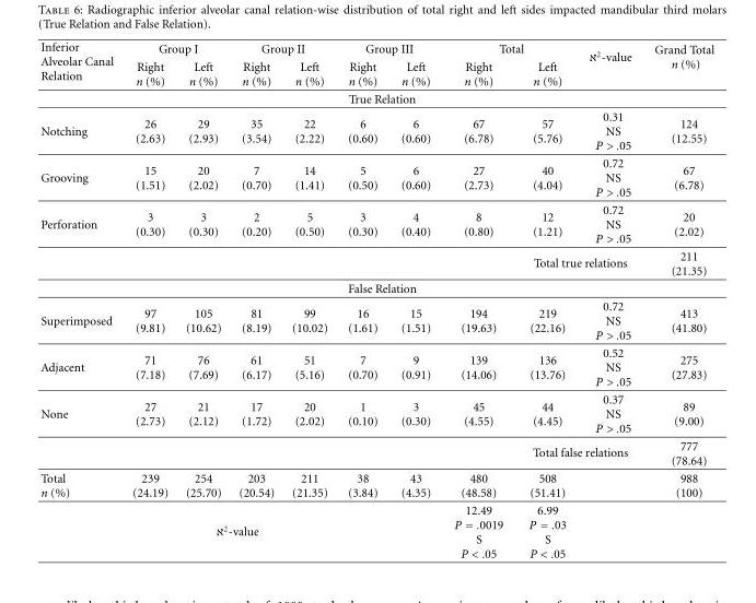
<table><thead><tr><td rowspan="2">Inferior Alveolar Canal Relation</td><td colspan="2">Group I</td><td colspan="2">Group II</td><td colspan="2">Group III</td><td colspan="2">Total</td><td rowspan="2">ℵ2-value</td><td rowspan="2">Grand Total n (%)</td></tr><tr><td>Right n (%)</td><td>Left n (%)</td><td>Right n (%)</td><td>Left n (%)</td><td>Right n (%)</td><td>Left n (%)</td><td>Right n (%)</td><td>Left n (%)</td></tr></thead><tbody><tr><td colspan="11">True Relation</td></tr><tr><td>Notching</td><td>26 (2.63)</td><td>29 (2.93)</td><td>35 (3.54)</td><td>22 (2.22)</td><td>6 (0.60)</td><td>6 (0.60)</td><td>67 (6.78)</td><td>57 (5.76)</td><td>0.31 NS P &gt; .05</td><td>124 (12.55)</td></tr><tr><td>Grooving</td><td>15 (1.51)</td><td>20 (2.02)</td><td>7 (0.70)</td><td>14 (1.41)</td><td>5 (0.50)</td><td>6 (0.60)</td><td>27 (2.73)</td><td>40 (4.04)</td><td>0.72 NS P &gt; .05</td><td>67 (6.78)</td></tr><tr><td rowspan="2">Perforation</td><td>3 (0.30)</td><td>3 (0.30)</td><td>2 (0.20)</td><td>5 (0.50)</td><td>3 (0.30)</td><td>4 (0.40)</td><td>8 (0.80)</td><td>12 (1.21)</td><td>0.72 NS P &gt; .05</td><td>20 (2.02)</td></tr><tr><td></td><td></td><td></td><td></td><td></td><td></td><td></td><td colspan="2">Total true relations</td><td>211 (21.35)</td></tr><tr><td colspan="11">False Relation</td></tr><tr><td>Superimposed</td><td>97 (9.81)</td><td>105 (10.62)</td><td>81 (8.19)</td><td>99 (10.02)</td><td>16 (1.61)</td><td>15 (1.51)</td><td>194 (19.63)</td><td>219 (22.16)</td><td>0.72 NS P &gt; .05</td><td>413 (41.80)</td></tr><tr><td>Adjacent</td><td>71 (7.18)</td><td>76 (7.69)</td><td>61 (6.17)</td><td>51 (5.16)</td><td>7 (0.70)</td><td>9 (0.91)</td><td>139 (14.06)</td><td>136 (13.76)</td><td>0.52 NS P &gt; .05</td><td>275 (27.83)</td></tr><tr><td rowspan="2">None</td><td>27 (2.73)</td><td>21 (2.12)</td><td>17 (1.72)</td><td>20 (2.02)</td><td>1 (0.10)</td><td>3 (0.30)</td><td>45 (4.55)</td><td>44 (4.45)</td><td>0.37 NS P &gt; .05</td><td>89 (9.00)</td></tr><tr><td></td><td></td><td></td><td></td><td></td><td></td><td></td><td colspan="2">Total false relations</td><td>777 (78.64)</td></tr><tr><td>Total n (%)</td><td>239 (24.19)</td><td>254 (25.70)</td><td>203 (20.54)</td><td>211 (21.35)</td><td>38 (3.84)</td><td>43 (4.35)</td><td>480 (48.58)</td><td>508 (51.41)</td><td></td><td>988 (100)</td></tr><tr><td colspan="7">ℵ2-value</td><td>12.49 P = .0019 S P &lt; .05</td><td>6.99 P = .03 S P &lt; .05</td><td></td><td></td></tr></tbody></table>